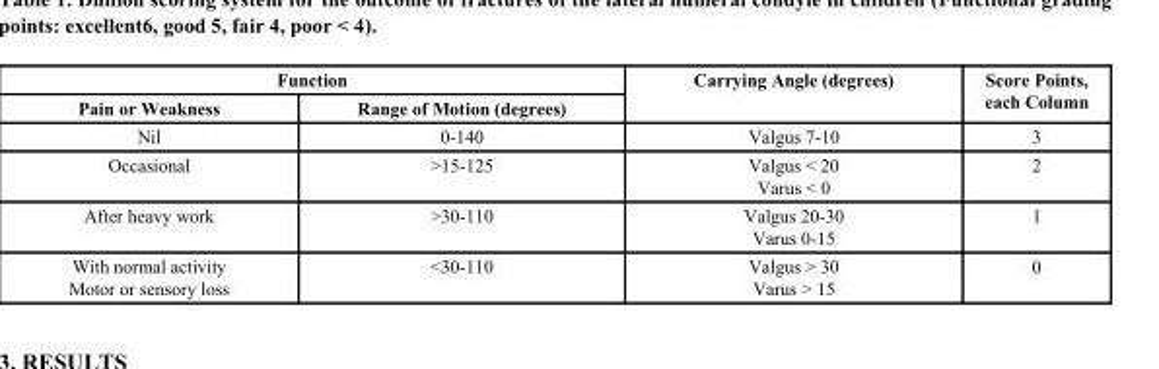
<table><thead><tr><td colspan="2">Function</td><td rowspan="2">Carrying Angle (degrees)</td><td rowspan="2">Score Points, each Column</td></tr><tr><td>Pain or Weakness</td><td>Range of Motion (degrees)</td></tr></thead><tbody><tr><td>Nil</td><td>0-140</td><td>Valgus 7-10</td><td>3</td></tr><tr><td>Occasional</td><td>&gt;15-125</td><td>Valgus &lt; 20 Varus &lt; 0</td><td>2</td></tr><tr><td>After heavy work</td><td>&gt;30-110</td><td>Valgus 20-30 Varus 0-15</td><td>1</td></tr><tr><td>With normal activity Motor or sensory loss</td><td>&lt;30-110</td><td>Valgus &gt; 30 Varus &gt; 15</td><td>0</td></tr></tbody></table>